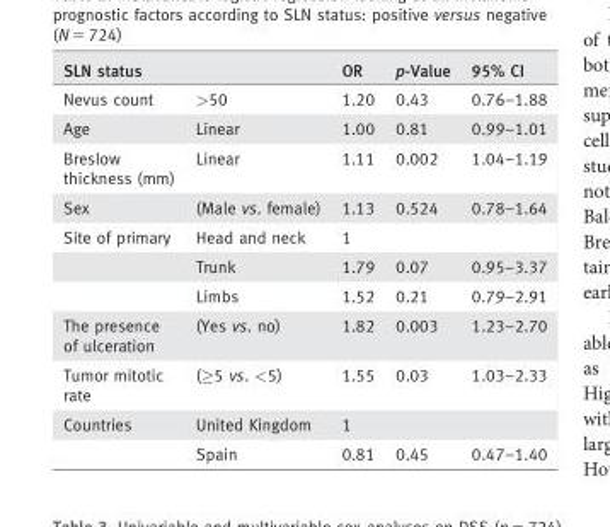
<table><thead><tr><td>SLN status</td><td></td><td>OR</td><td>p-Value</td><td>95% CI</td></tr></thead><tbody><tr><td>Nevus count</td><td>&gt;50</td><td>1.20</td><td>0.43</td><td>0.76–1.88</td></tr><tr><td>Age</td><td>Linear</td><td>1.00</td><td>0.81</td><td>0.99–1.01</td></tr><tr><td>Breslow thickness (mm)</td><td>Linear</td><td>1.11</td><td>0.002</td><td>1.04–1.19</td></tr><tr><td>Sex</td><td>(Male vs. female)</td><td>1.13</td><td>0.524</td><td>0.78–1.64</td></tr><tr><td rowspan="3">Site of primary</td><td>Head and neck</td><td>1</td><td></td><td></td></tr><tr><td>Trunk</td><td>1.79</td><td>0.07</td><td>0.95–3.37</td></tr><tr><td>Limbs</td><td>1.52</td><td>0.21</td><td>0.79–2.91</td></tr><tr><td>The presence of ulceration</td><td>(Yes vs. no)</td><td>1.82</td><td>0.003</td><td>1.23–2.70</td></tr><tr><td>Tumor mitotic rate</td><td>(≥5 vs. &lt;5)</td><td>1.55</td><td>0.03</td><td>1.03–2.33</td></tr><tr><td rowspan="2">Countries</td><td>United Kingdom</td><td>1</td><td></td><td></td></tr><tr><td>Spain</td><td>0.81</td><td>0.45</td><td>0.47–1.40</td></tr></tbody></table>